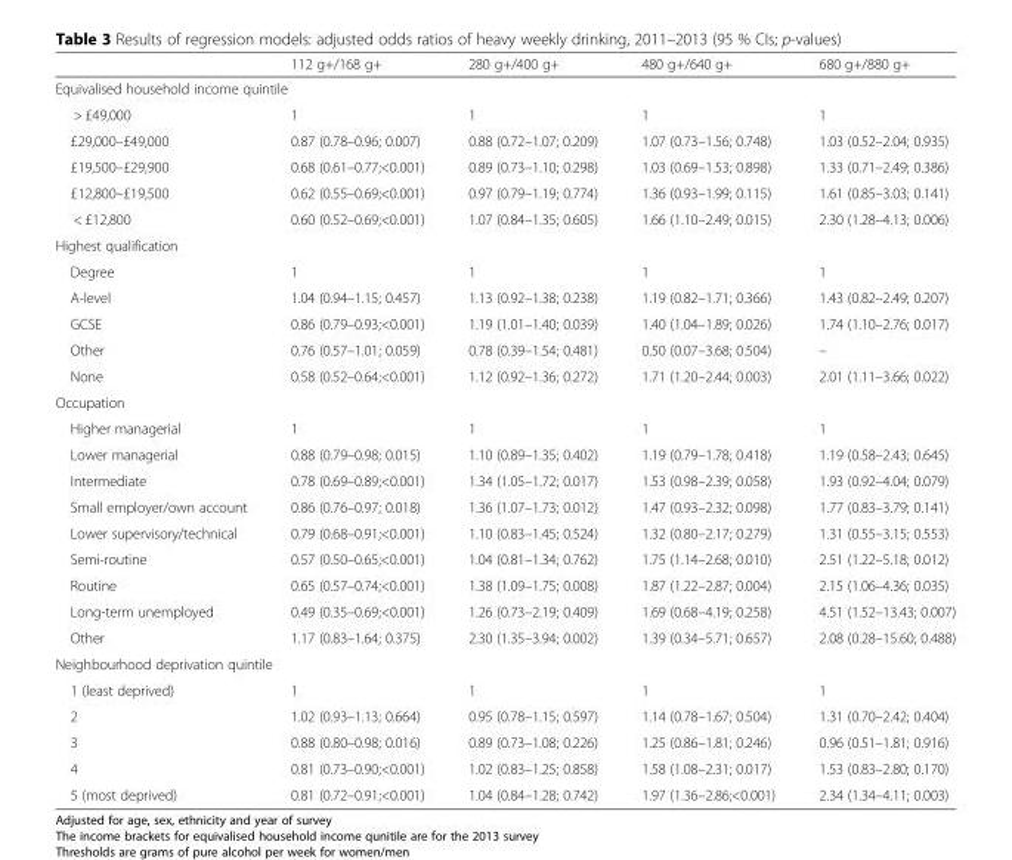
<table><thead><tr><td></td><td>112 g+/168 g+</td><td>280 g+/400 g+</td><td>480 g+/640 g+</td><td>680 g+/880 g+</td></tr></thead><tbody><tr><td colspan="5">Equivalised household income quintile</td></tr><tr><td>&gt; £49,000</td><td>1</td><td>1</td><td>1</td><td>1</td></tr><tr><td>£29,000–£49,000</td><td>0.87 (0.78–0.96; 0.007)</td><td>0.88 (0.72–1.07; 0.209)</td><td>1.07 (0.73–1.56; 0.748)</td><td>1.03 (0.52–2.04; 0.935)</td></tr><tr><td>£19,500–£29,900</td><td>0.68 (0.61–0.77;&lt;0.001)</td><td>0.89 (0.73–1.10; 0.298)</td><td>1.03 (0.69–1.53; 0.898)</td><td>1.33 (0.71–2.49; 0.386)</td></tr><tr><td>£12,800–£19,500</td><td>0.62 (0.55–0.69;&lt;0.001)</td><td>0.97 (0.79–1.19; 0.774)</td><td>1.36 (0.93–1.99; 0.115)</td><td>1.61 (0.85–3.03; 0.141)</td></tr><tr><td>&lt; £12,800</td><td>0.60 (0.52–0.69;&lt;0.001)</td><td>1.07 (0.84–1.35; 0.605)</td><td>1.66 (1.10–2.49; 0.015)</td><td>2.30 (1.28–4.13; 0.006)</td></tr><tr><td colspan="5">Highest qualification</td></tr><tr><td>Degree</td><td>1</td><td>1</td><td>1</td><td>1</td></tr><tr><td>A-level</td><td>1.04 (0.94–1.15; 0.457)</td><td>1.13 (0.92–1.38; 0.238)</td><td>1.19 (0.82–1.71; 0.366)</td><td>1.43 (0.82–2.49; 0.207)</td></tr><tr><td>GCSE</td><td>0.86 (0.79–0.93;&lt;0.001)</td><td>1.19 (1.01–1.40; 0.039)</td><td>1.40 (1.04–1.89; 0.026)</td><td>1.74 (1.10–2.76; 0.017)</td></tr><tr><td>Other</td><td>0.76 (0.57–1.01; 0.059)</td><td>0.78 (0.39–1.54; 0.481)</td><td>0.50 (0.07–3.68; 0.504)</td><td>–</td></tr><tr><td>None</td><td>0.58 (0.52–0.64;&lt;0.001)</td><td>1.12 (0.92–1.36; 0.272)</td><td>1.71 (1.20–2.44; 0.003)</td><td>2.01 (1.11–3.66; 0.022)</td></tr><tr><td colspan="5">Occupation</td></tr><tr><td>Higher managerial</td><td>1</td><td>1</td><td>1</td><td>1</td></tr><tr><td>Lower managerial</td><td>0.88 (0.79–0.98; 0.015)</td><td>1.10 (0.89–1.35; 0.402)</td><td>1.19 (0.79–1.78; 0.418)</td><td>1.19 (0.58–2.43; 0.645)</td></tr><tr><td>Intermediate</td><td>0.78 (0.69–0.89;&lt;0.001)</td><td>1.34 (1.05–1.72; 0.017)</td><td>1.53 (0.98–2.39; 0.058)</td><td>1.93 (0.92–4.04; 0.079)</td></tr><tr><td>Small employer/own account</td><td>0.86 (0.76–0.97; 0.018)</td><td>1.36 (1.07–1.73; 0.012)</td><td>1.47 (0.93–2.32; 0.098)</td><td>1.77 (0.83–3.79; 0.141)</td></tr><tr><td>Lower supervisory/technical</td><td>0.79 (0.68–0.91;&lt;0.001)</td><td>1.10 (0.83–1.45; 0.524)</td><td>1.32 (0.80–2.17; 0.279)</td><td>1.31 (0.55–3.15; 0.553)</td></tr><tr><td>Semi-routine</td><td>0.57 (0.50–0.65;&lt;0.001)</td><td>1.04 (0.81–1.34; 0.762)</td><td>1.75 (1.14–2.68; 0.010)</td><td>2.51 (1.22–5.18; 0.012)</td></tr><tr><td>Routine</td><td>0.65 (0.57–0.74;&lt;0.001)</td><td>1.38 (1.09–1.75; 0.008)</td><td>1.87 (1.22–2.87; 0.004)</td><td>2.15 (1.06–4.36; 0.035)</td></tr><tr><td>Long-term unemployed</td><td>0.49 (0.35–0.69;&lt;0.001)</td><td>1.26 (0.73–2.19; 0.409)</td><td>1.69 (0.68–4.19; 0.258)</td><td>4.51 (1.52–13.43; 0.007)</td></tr><tr><td>Other</td><td>1.17 (0.83–1.64; 0.375)</td><td>2.30 (1.35–3.94; 0.002)</td><td>1.39 (0.34–5.71; 0.657)</td><td>2.08 (0.28–15.60; 0.488)</td></tr><tr><td colspan="5">Neighbourhood deprivation quintile</td></tr><tr><td>1 (least deprived)</td><td>1</td><td>1</td><td>1</td><td>1</td></tr><tr><td>2</td><td>1.02 (0.93–1.13; 0.664)</td><td>0.95 (0.78–1.15; 0.597)</td><td>1.14 (0.78–1.67; 0.504)</td><td>1.31 (0.70–2.42; 0.404)</td></tr><tr><td>3</td><td>0.88 (0.80–0.98; 0.016)</td><td>0.89 (0.73–1.08; 0.226)</td><td>1.25 (0.86–1.81; 0.246)</td><td>0.96 (0.51–1.81; 0.916)</td></tr><tr><td>4</td><td>0.81 (0.73–0.90;&lt;0.001)</td><td>1.02 (0.83–1.25; 0.858)</td><td>1.58 (1.08–2.31; 0.017)</td><td>1.53 (0.83–2.80; 0.170)</td></tr><tr><td>5 (most deprived)</td><td>0.81 (0.72–0.91;&lt;0.001)</td><td>1.04 (0.84–1.28; 0.742)</td><td>1.97 (1.36–2.86;&lt;0.001)</td><td>2.34 (1.34–4.11; 0.003)</td></tr></tbody></table>